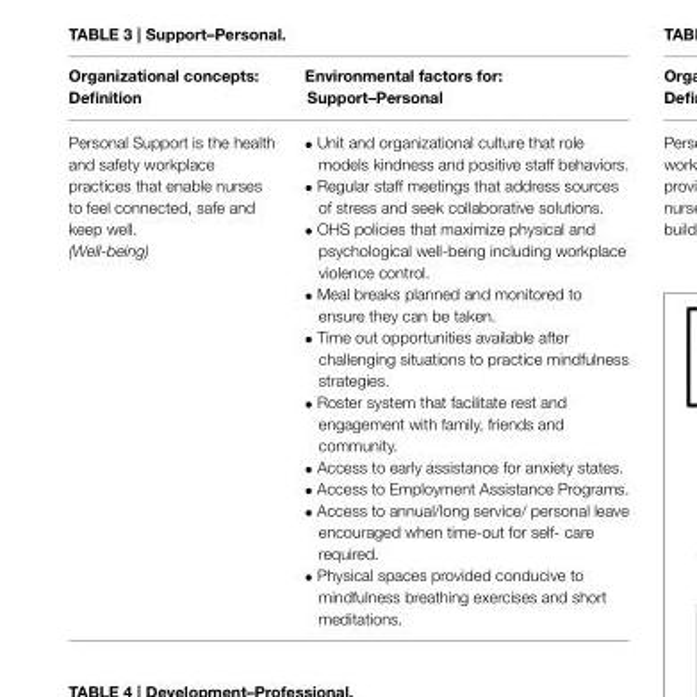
<table><thead><tr><td>Organizational concepts: Definition</td><td>Environmental factors for: Support–Personal</td></tr></thead><tbody><tr><td>Personal Support is the health and safety workplace practices that enable nurses to feel connected, safe and keep well. (Well-being)</td><td>• Unit and organizational culture that role models kindness and positive staff behaviors. • Regular staff meetings that address sources of stress and seek collaborative solutions. • OHS policies that maximize physical and psychological well-being including workplace violence control. • Meal breaks planned and monitored to ensure they can be taken. • Time out opportunities available after challenging situations to practice mindfulness strategies. • Roster system that facilitate rest and engagement with family, friends and community. • Access to early assistance for anxiety states. • Access to Employment Assistance Programs. • Access to annual/long service/ personal leave encouraged when time-out for self- care required. • Physical spaces provided conducive to mindfulness breathing exercises and short meditations.</td></tr></tbody></table>